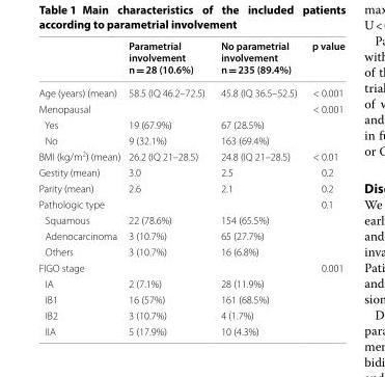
<table><thead><tr><td></td><td>Parametrial involvement n = 28 (10.6%)</td><td>No parametrial involvement n = 235 (89.4%)</td><td>p value</td></tr></thead><tbody><tr><td>Age (years) (mean)</td><td>58.5 (IQ 46.2–72.5)</td><td>45.8 (IQ 36.5–52.5)</td><td>&lt; 0.001</td></tr><tr><td>Menopausal</td><td></td><td></td><td>&lt; 0.001</td></tr><tr><td>Yes</td><td>19 (67.9%)</td><td>67 (28.5%)</td><td></td></tr><tr><td>No</td><td>9 (32.1%)</td><td>163 (69.4%)</td><td></td></tr><tr><td>BMI (kg/m<sup>2</sup>) (mean)</td><td>26.2 (IQ 21–28.5)</td><td>24.8 (IQ 21–28.5)</td><td>&lt; 0.01</td></tr><tr><td>Gestity (mean)</td><td>3.0</td><td>2.5</td><td>0.2</td></tr><tr><td>Parity (mean)</td><td>2.6</td><td>2.1</td><td>0.2</td></tr><tr><td>Pathologic type</td><td></td><td></td><td>0.1</td></tr><tr><td>Squamous</td><td>22 (78.6%)</td><td>154 (65.5%)</td><td></td></tr><tr><td>Adenocarcinoma</td><td>3 (10.7%)</td><td>65 (27.7%)</td><td></td></tr><tr><td>Others</td><td>3 (10.7%)</td><td>16 (6.8%)</td><td></td></tr><tr><td>FIGO stage</td><td></td><td></td><td>0.001</td></tr><tr><td>IA</td><td>2 (7.1%)</td><td>28 (11.9%)</td><td></td></tr><tr><td>IB1</td><td>16 (57%)</td><td>161 (68.5%)</td><td></td></tr><tr><td>IB2</td><td>3 (10.7%)</td><td>4 (1.7%)</td><td></td></tr><tr><td>IIA</td><td>5 (17.9%)</td><td>10 (4.3%)</td><td></td></tr></tbody></table>